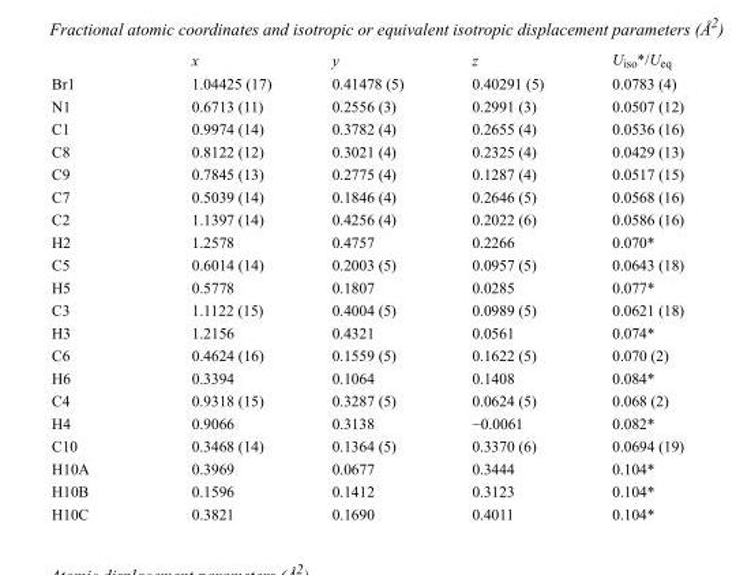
<table><thead><tr><td></td><td>x</td><td>y</td><td>z</td><td>U<sub>iso</sub>*/U<sub>eq</sub></td></tr></thead><tbody><tr><td>Br1</td><td>1.04425 (17)</td><td>0.41478 (5)</td><td>0.40291 (5)</td><td>0.0783 (4)</td></tr><tr><td>N1</td><td>0.6713 (11)</td><td>0.2556 (3)</td><td>0.2991 (3)</td><td>0.0507 (12)</td></tr><tr><td>C1</td><td>0.9974 (14)</td><td>0.3782 (4)</td><td>0.2655 (4)</td><td>0.0536 (16)</td></tr><tr><td>C8</td><td>0.8122 (12)</td><td>0.3021 (4)</td><td>0.2325 (4)</td><td>0.0429 (13)</td></tr><tr><td>C9</td><td>0.7845 (13)</td><td>0.2775 (4)</td><td>0.1287 (4)</td><td>0.0517 (15)</td></tr><tr><td>C7</td><td>0.5039 (14)</td><td>0.1846 (4)</td><td>0.2646 (5)</td><td>0.0568 (16)</td></tr><tr><td>C2</td><td>1.1397 (14)</td><td>0.4256 (4)</td><td>0.2022 (6)</td><td>0.0586 (16)</td></tr><tr><td>H2</td><td>1.2578</td><td>0.4757</td><td>0.2266</td><td>0.070*</td></tr><tr><td>C5</td><td>0.6014 (14)</td><td>0.2003 (5)</td><td>0.0957 (5)</td><td>0.0643 (18)</td></tr><tr><td>H5</td><td>0.5778</td><td>0.1807</td><td>0.0285</td><td>0.077*</td></tr><tr><td>C3</td><td>1.1122 (15)</td><td>0.4004 (5)</td><td>0.0989 (5)</td><td>0.0621 (18)</td></tr><tr><td>H3</td><td>1.2156</td><td>0.4321</td><td>0.0561</td><td>0.074*</td></tr><tr><td>C6</td><td>0.4624 (16)</td><td>0.1559 (5)</td><td>0.1622 (5)</td><td>0.070 (2)</td></tr><tr><td>H6</td><td>0.3394</td><td>0.1064</td><td>0.1408</td><td>0.084*</td></tr><tr><td>C4</td><td>0.9318 (15)</td><td>0.3287 (5)</td><td>0.0624 (5)</td><td>0.068 (2)</td></tr><tr><td>H4</td><td>0.9066</td><td>0.3138</td><td>−0.0061</td><td>0.082*</td></tr><tr><td>C10</td><td>0.3468 (14)</td><td>0.1364 (5)</td><td>0.3370 (6)</td><td>0.0694 (19)</td></tr><tr><td>H10A</td><td>0.3969</td><td>0.0677</td><td>0.3444</td><td>0.104*</td></tr><tr><td>H10B</td><td>0.1596</td><td>0.1412</td><td>0.3123</td><td>0.104*</td></tr><tr><td>H10C</td><td>0.3821</td><td>0.1690</td><td>0.4011</td><td>0.104*</td></tr></tbody></table>